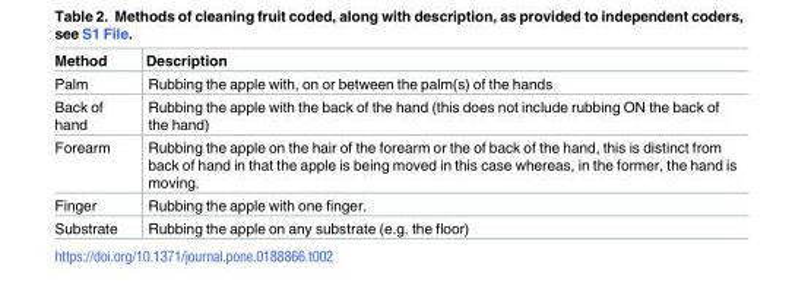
<table><thead><tr><td>Method</td><td>Description</td></tr></thead><tbody><tr><td>Palm</td><td>Rubbing the apple with, on or between the palm(s) of the hands</td></tr><tr><td>Back of hand</td><td>Rubbing the apple with the back of the hand (this does not include rubbing ON the back of the hand)</td></tr><tr><td>Forearm</td><td>Rubbing the apple on the hair of the forearm or the of back of the hand, this is distinct from back of hand in that the apple is being moved in this case whereas, in the former, the hand is moving.</td></tr><tr><td>Finger</td><td>Rubbing the apple with one finger.</td></tr><tr><td>Substrate</td><td>Rubbing the apple on any substrate (e.g. the floor)</td></tr></tbody></table>